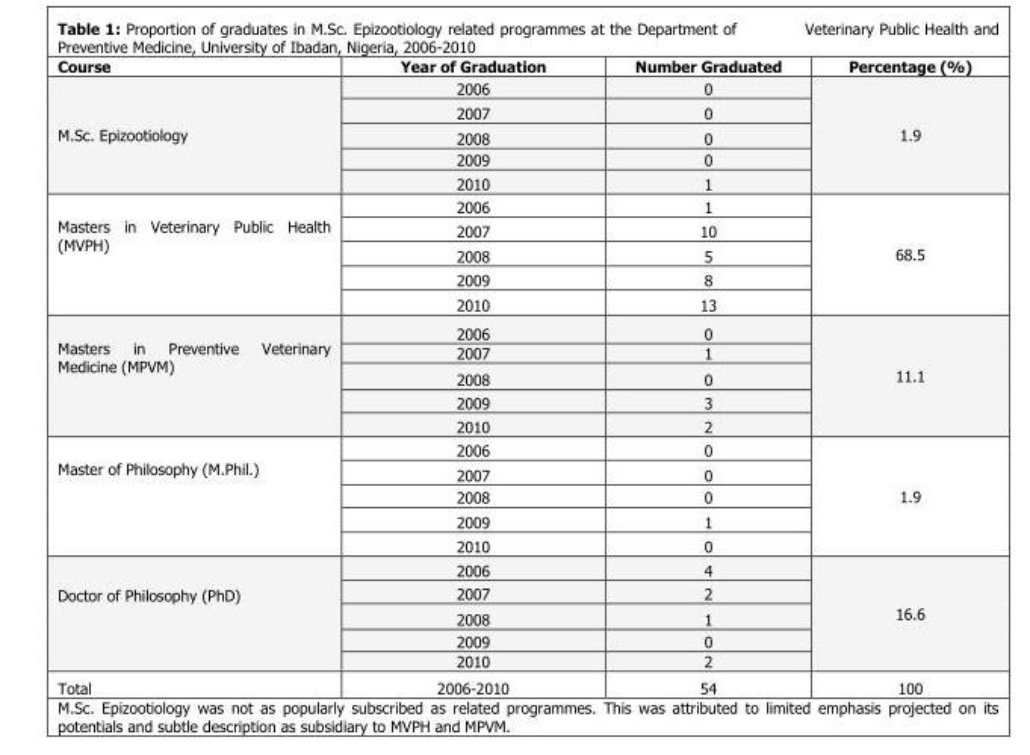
<table><thead><tr><td>Course</td><td>Year of Graduation</td><td>Number Graduated</td><td>Percentage (%)</td></tr></thead><tbody><tr><td rowspan="5">M.Sc. Epizootiology</td><td>2006</td><td>0</td><td rowspan="5">1.9</td></tr><tr><td>2007</td><td>0</td></tr><tr><td>2008</td><td>0</td></tr><tr><td>2009</td><td>0</td></tr><tr><td>2010</td><td>1</td></tr><tr><td rowspan="5">Masters in Veterinary Public Health (MVPH)</td><td>2006</td><td>1</td><td rowspan="5">68.5</td></tr><tr><td>2007</td><td>10</td></tr><tr><td>2008</td><td>5</td></tr><tr><td>2009</td><td>8</td></tr><tr><td>2010</td><td>13</td></tr><tr><td rowspan="5">Masters in Preventive Veterinary Medicine (MPVM)</td><td>2006</td><td>0</td><td rowspan="5">11.1</td></tr><tr><td>2007</td><td>1</td></tr><tr><td>2008</td><td>0</td></tr><tr><td>2009</td><td>3</td></tr><tr><td>2010</td><td>2</td></tr><tr><td rowspan="5">Master of Philosophy (M.Phil.)</td><td>2006</td><td>0</td><td rowspan="5">1.9</td></tr><tr><td>2007</td><td>0</td></tr><tr><td>2008</td><td>0</td></tr><tr><td>2009</td><td>1</td></tr><tr><td>2010</td><td>0</td></tr><tr><td rowspan="5">Doctor of Philosophy (PhD)</td><td>2006</td><td>4</td><td rowspan="5">16.6</td></tr><tr><td>2007</td><td>2</td></tr><tr><td>2008</td><td>1</td></tr><tr><td>2009</td><td>0</td></tr><tr><td>2010</td><td>2</td></tr><tr><td>Total</td><td>2006-2010</td><td>54</td><td>100</td></tr></tbody></table>